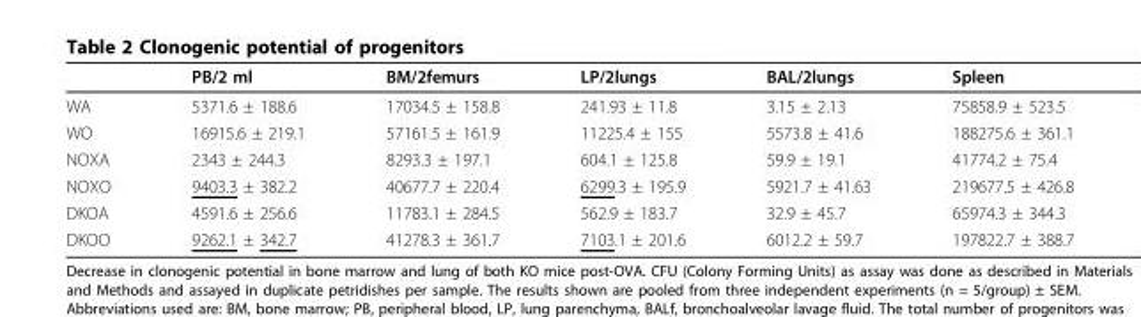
<table><thead><tr><td></td><td>PB/2 ml</td><td>BM/2femurs</td><td>LP/2lungs</td><td>BAL/2lungs</td><td>Spleen</td></tr></thead><tbody><tr><td>WA</td><td>5371.6 ± 188.6</td><td>17034.5 ± 158.8</td><td>241.93 ± 11.8</td><td>3.15 ± 2.13</td><td>75858.9 ± 523.5</td></tr><tr><td>WO</td><td>16915.6 ± 219.1</td><td>57161.5 ± 161.9</td><td>11225.4 ± 155</td><td>5573.8 ± 41.6</td><td>188275.6 ± 361.1</td></tr><tr><td>NOXA</td><td>2343 ± 244.3</td><td>8293.3 ± 197.1</td><td>604.1 ± 125.8</td><td>59.9 ± 19.1</td><td>41774.2 ± 75.4</td></tr><tr><td>NOXO</td><td>9403.3 ± 382.2</td><td>40677.7 ± 220.4</td><td>6299.3 ± 195.9</td><td>5921.7 ± 41.63</td><td>219677.5 ± 426.8</td></tr><tr><td>DKOA</td><td>4591.6 ± 256.6</td><td>11783.1 ± 284.5</td><td>562.9 ± 183.7</td><td>32.9 ± 45.7</td><td>65974.3 ± 344.3</td></tr><tr><td>DKOO</td><td>9262.1 ± 342.7</td><td>41278.3 ± 361.7</td><td>7103.1 ± 201.6</td><td>6012.2 ± 59.7</td><td>197822.7 ± 388.7</td></tr></tbody></table>